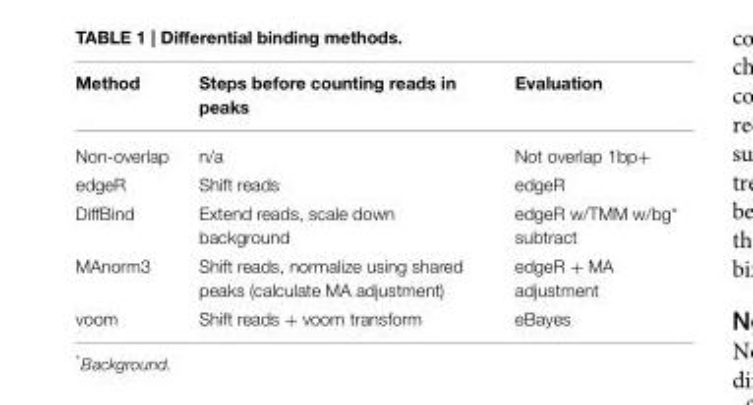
<table><thead><tr><td>Method</td><td>Steps before counting reads in peaks</td><td>Evaluation</td></tr></thead><tbody><tr><td>Non-overlap</td><td>n/a</td><td>Not overlap 1bp+</td></tr><tr><td>edgeR</td><td>Shift reads</td><td>edgeR</td></tr><tr><td>DiffBind</td><td>Extend reads, scale down background</td><td>edgeR w/TMM w/bg* subtract</td></tr><tr><td>MAnorm3</td><td>Shift reads, normalize using shared peaks (calculate MA adjustment)</td><td>edgeR + MA adjustment</td></tr><tr><td>voom</td><td>Shift reads + voom transform</td><td>eBayes</td></tr></tbody></table>